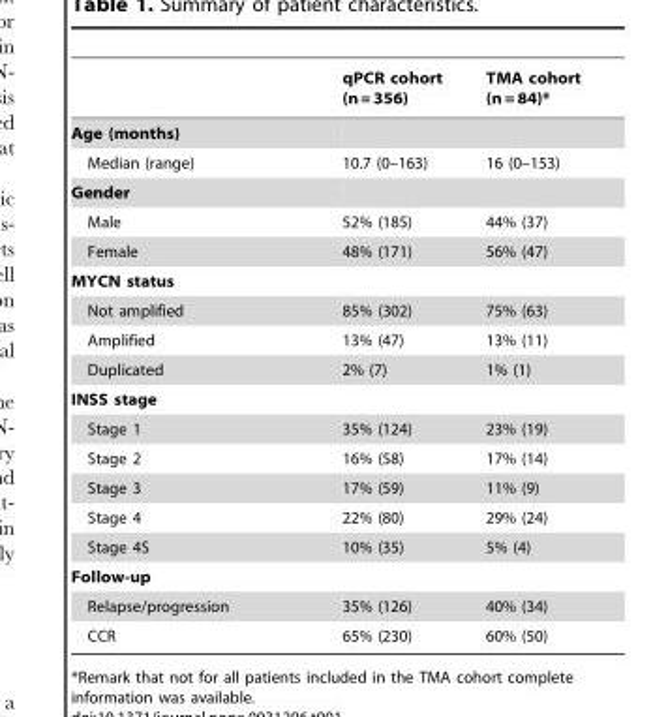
<table><thead><tr><td></td><td>qPCR cohort (n = 356)</td><td>TMA cohort (n = 84)*</td></tr></thead><tbody><tr><td colspan="3">Age (months)</td></tr><tr><td>Median (range)</td><td>10.7 (0–163)</td><td>16 (0–153)</td></tr><tr><td colspan="3">Gender</td></tr><tr><td>Male</td><td>52% (185)</td><td>44% (37)</td></tr><tr><td>Female</td><td>48% (171)</td><td>56% (47)</td></tr><tr><td colspan="3">MYCN status</td></tr><tr><td>Not amplified</td><td>85% (302)</td><td>75% (63)</td></tr><tr><td>Amplified</td><td>13% (47)</td><td>13% (11)</td></tr><tr><td>Duplicated</td><td>2% (7)</td><td>1% (1)</td></tr><tr><td colspan="3">INSS stage</td></tr><tr><td>Stage 1</td><td>35% (124)</td><td>23% (19)</td></tr><tr><td>Stage 2</td><td>16% (58)</td><td>17% (14)</td></tr><tr><td>Stage 3</td><td>17% (59)</td><td>11% (9)</td></tr><tr><td>Stage 4</td><td>22% (80)</td><td>29% (24)</td></tr><tr><td>Stage 4S</td><td>10% (35)</td><td>5% (4)</td></tr><tr><td colspan="3">Follow-up</td></tr><tr><td>Relapse/progression</td><td>35% (126)</td><td>40% (34)</td></tr><tr><td>CCR</td><td>65% (230)</td><td>60% (50)</td></tr></tbody></table>